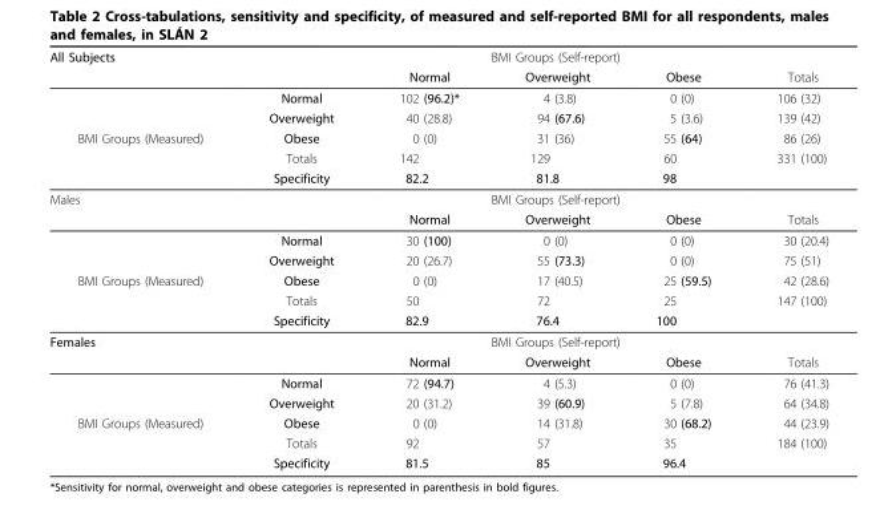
<table><tbody><tr><td rowspan="2">All Subjects</td><td></td><td colspan="3">BMI Groups (Self-report)</td><td></td></tr><tr><td></td><td>Normal</td><td>Overweight</td><td>Obese</td><td>Totals</td></tr><tr><td rowspan="5">BMI Groups (Measured)</td><td>Normal</td><td>102 (96.2)*</td><td>4 (3.8)</td><td>0 (0)</td><td>106 (32)</td></tr><tr><td>Overweight</td><td>40 (28.8)</td><td>94 (67.6)</td><td>5 (3.6)</td><td>139 (42)</td></tr><tr><td>Obese</td><td>0 (0)</td><td>31 (36)</td><td>55 (64)</td><td>86 (26)</td></tr><tr><td>Totals</td><td>142</td><td>129</td><td>60</td><td>331 (100)</td></tr><tr><td>Specificity</td><td>82.2</td><td>81.8</td><td>98</td><td></td></tr><tr><td rowspan="2">Males</td><td></td><td colspan="3">BMI Groups (Self-report)</td><td></td></tr><tr><td></td><td>Normal</td><td>Overweight</td><td>Obese</td><td>Totals</td></tr><tr><td rowspan="5">BMI Groups (Measured)</td><td>Normal</td><td>30 (100)</td><td>0 (0)</td><td>0 (0)</td><td>30 (20.4)</td></tr><tr><td>Overweight</td><td>20 (26.7)</td><td>55 (73.3)</td><td>0 (0)</td><td>75 (51)</td></tr><tr><td>Obese</td><td>0 (0)</td><td>17 (40.5)</td><td>25 (59.5)</td><td>42 (28.6)</td></tr><tr><td>Totals</td><td>50</td><td>72</td><td>25</td><td>147 (100)</td></tr><tr><td>Specificity</td><td>82.9</td><td>76.4</td><td>100</td><td></td></tr><tr><td rowspan="2">Females</td><td></td><td colspan="3">BMI Groups (Self-report)</td><td></td></tr><tr><td></td><td>Normal</td><td>Overweight</td><td>Obese</td><td>Totals</td></tr><tr><td rowspan="5">BMI Groups (Measured)</td><td>Normal</td><td>72 (94.7)</td><td>4 (5.3)</td><td>0 (0)</td><td>76 (41.3)</td></tr><tr><td>Overweight</td><td>20 (31.2)</td><td>39 (60.9)</td><td>5 (7.8)</td><td>64 (34.8)</td></tr><tr><td>Obese</td><td>0 (0)</td><td>14 (31.8)</td><td>30 (68.2)</td><td>44 (23.9)</td></tr><tr><td>Totals</td><td>92</td><td>57</td><td>35</td><td>184 (100)</td></tr><tr><td>Specificity</td><td>81.5</td><td>85</td><td>96.4</td><td></td></tr></tbody></table>